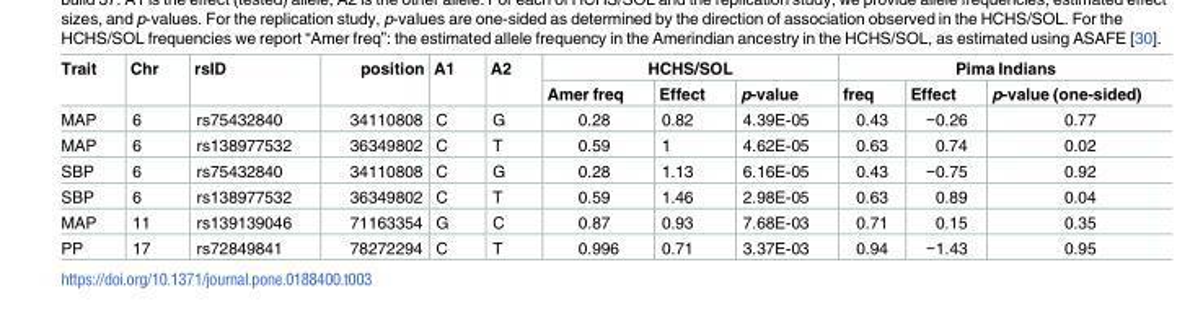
<table><thead><tr><td rowspan="2">Trait</td><td rowspan="2">Chr</td><td rowspan="2">rsID</td><td rowspan="2">position</td><td rowspan="2">A1</td><td rowspan="2">A2</td><td colspan="3">HCHS/SOL</td><td colspan="3">Pima Indians</td></tr><tr><td>Amer freq</td><td>Effect</td><td>p-value</td><td>freq</td><td>Effect</td><td>p-value (one-sided)</td></tr></thead><tbody><tr><td>MAP</td><td>6</td><td>rs75432840</td><td>34110808</td><td>C</td><td>G</td><td>0.28</td><td>0.82</td><td>4.39E-05</td><td>0.43</td><td>−0.26</td><td>0.77</td></tr><tr><td>MAP</td><td>6</td><td>rs138977532</td><td>36349802</td><td>C</td><td>T</td><td>0.59</td><td>1</td><td>4.62E-05</td><td>0.63</td><td>0.74</td><td>0.02</td></tr><tr><td>SBP</td><td>6</td><td>rs75432840</td><td>34110808</td><td>C</td><td>G</td><td>0.28</td><td>1.13</td><td>6.16E-05</td><td>0.43</td><td>−0.75</td><td>0.92</td></tr><tr><td>SBP</td><td>6</td><td>rs138977532</td><td>36349802</td><td>C</td><td>T</td><td>0.59</td><td>1.46</td><td>2.98E-05</td><td>0.63</td><td>0.89</td><td>0.04</td></tr><tr><td>MAP</td><td>11</td><td>rs139139046</td><td>71163354</td><td>G</td><td>C</td><td>0.87</td><td>0.93</td><td>7.68E-03</td><td>0.71</td><td>0.15</td><td>0.35</td></tr><tr><td>PP</td><td>17</td><td>rs72849841</td><td>78272294</td><td>C</td><td>T</td><td>0.996</td><td>0.71</td><td>3.37E-03</td><td>0.94</td><td>−1.43</td><td>0.95</td></tr></tbody></table>